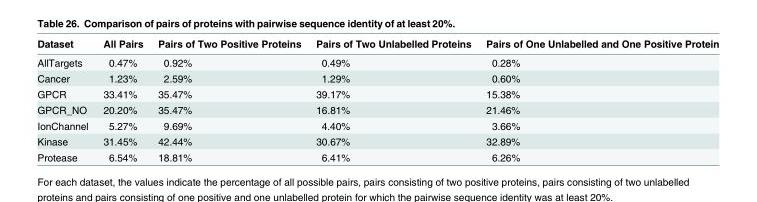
<table><thead><tr><td>Dataset</td><td>All Pairs</td><td>Pairs of Two Positive Proteins</td><td>Pairs of Two Unlabelled Proteins</td><td>Pairs of One Unlabelled and One Positive Protein</td></tr></thead><tbody><tr><td>AllTargets</td><td>0.47%</td><td>0.92%</td><td>0.49%</td><td>0.28%</td></tr><tr><td>Cancer</td><td>1.23%</td><td>2.59%</td><td>1.29%</td><td>0.60%</td></tr><tr><td>GPCR</td><td>33.41%</td><td>35.47%</td><td>39.17%</td><td>15.38%</td></tr><tr><td>GPCR_NO</td><td>20.20%</td><td>35.47%</td><td>16.81%</td><td>21.46%</td></tr><tr><td>IonChannel</td><td>5.27%</td><td>9.69%</td><td>4.40%</td><td>3.66%</td></tr><tr><td>Kinase</td><td>31.45%</td><td>42.44%</td><td>30.67%</td><td>32.89%</td></tr><tr><td>Protease</td><td>6.54%</td><td>18.81%</td><td>6.41%</td><td>6.26%</td></tr></tbody></table>